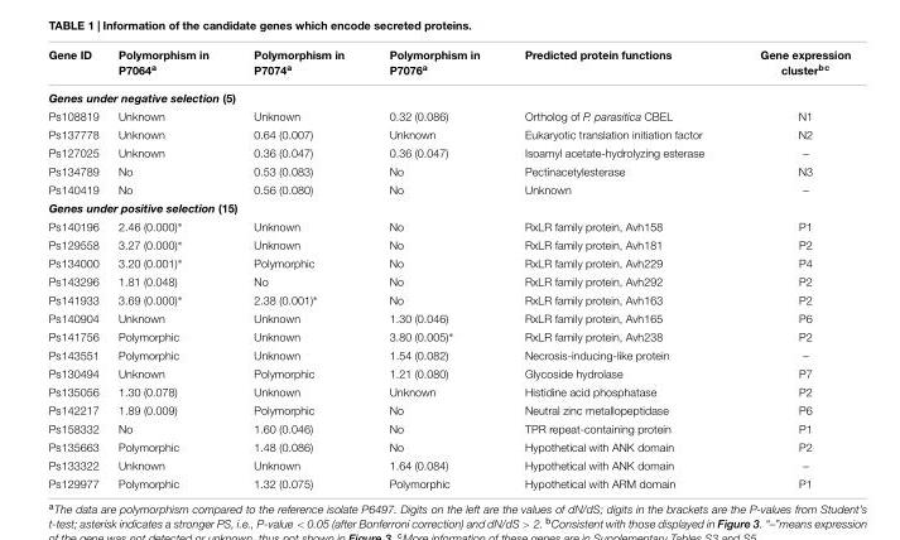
<table><thead><tr><td>Gene ID</td><td>Polymorphism in P7064<sup>a</sup></td><td>Polymorphism in P7074<sup>a</sup></td><td>Polymorphism in P7076<sup>a</sup></td><td>Predicted protein functions</td><td>Gene expression cluster<sup>bc</sup></td></tr></thead><tbody><tr><td colspan="6">Genes under negative selection (5)</td></tr><tr><td>Ps108819</td><td>Unknown</td><td>Unknown</td><td>0.32 (0.086)</td><td>Ortholog of P. parasitica CBEL</td><td>N1</td></tr><tr><td>Ps137778</td><td>Unknown</td><td>0.64 (0.007)</td><td>Unknown</td><td>Eukaryotic translation initiation factor</td><td>N2</td></tr><tr><td>Ps127025</td><td>Unknown</td><td>0.36 (0.047)</td><td>0.36 (0.047)</td><td>Isoamyl acetate-hydrolyzing esterase</td><td>–</td></tr><tr><td>Ps134789</td><td>No</td><td>0.53 (0.083)</td><td>No</td><td>Pectinacetylesterase</td><td>N3</td></tr><tr><td>Ps140419</td><td>No</td><td>0.56 (0.080)</td><td>No</td><td>Unknown</td><td>–</td></tr><tr><td colspan="6">Genes under positive selection (15)</td></tr><tr><td>Ps140196</td><td>2.46 (0.000)∗</td><td>Unknown</td><td>No</td><td>RxLR family protein, Avh158</td><td>P1</td></tr><tr><td>Ps129558</td><td>3.27 (0.000)∗</td><td>Unknown</td><td>No</td><td>RxLR family protein, Avh181</td><td>P2</td></tr><tr><td>Ps134000</td><td>3.20 (0.001)∗</td><td>Polymorphic</td><td>No</td><td>RxLR family protein, Avh229</td><td>P4</td></tr><tr><td>Ps143296</td><td>1.81 (0.048)</td><td>No</td><td>No</td><td>RxLR family protein, Avh292</td><td>P2</td></tr><tr><td>Ps141933</td><td>3.69 (0.000)∗</td><td>2.38 (0.001)∗</td><td>No</td><td>RxLR family protein, Avh163</td><td>P2</td></tr><tr><td>Ps140904</td><td>Unknown</td><td>Unknown</td><td>1.30 (0.046)</td><td>RxLR family protein, Avh165</td><td>P6</td></tr><tr><td>Ps141756</td><td>Polymorphic</td><td>Unknown</td><td>3.80 (0.005)∗</td><td>RxLR family protein, Avh238</td><td>P2</td></tr><tr><td>Ps143551</td><td>Polymorphic</td><td>Unknown</td><td>1.54 (0.082)</td><td>Necrosis-inducing-like protein</td><td>–</td></tr><tr><td>Ps130494</td><td>Unknown</td><td>Polymorphic</td><td>1.21 (0.080)</td><td>Glycoside hydrolase</td><td>P7</td></tr><tr><td>Ps135056</td><td>1.30 (0.078)</td><td>Unknown</td><td>Unknown</td><td>Histidine acid phosphatase</td><td>P2</td></tr><tr><td>Ps142217</td><td>1.89 (0.009)</td><td>Polymorphic</td><td>No</td><td>Neutral zinc metallopeptidase</td><td>P6</td></tr><tr><td>Ps158332</td><td>No</td><td>1.60 (0.046)</td><td>No</td><td>TPR repeat-containing protein</td><td>P1</td></tr><tr><td>Ps135663</td><td>Polymorphic</td><td>1.48 (0.086)</td><td>No</td><td>Hypothetical with ANK domain</td><td>P2</td></tr><tr><td>Ps133322</td><td>Unknown</td><td>Unknown</td><td>1.64 (0.084)</td><td>Hypothetical with ANK domain</td><td>–</td></tr><tr><td>Ps129977</td><td>Polymorphic</td><td>1.32 (0.075)</td><td>Polymorphic</td><td>Hypothetical with ARM domain</td><td>P1</td></tr></tbody></table>